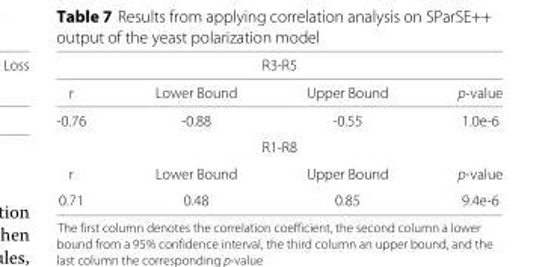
<table><thead><tr><td colspan="4">R3-R5</td></tr><tr><td>r</td><td>Lower Bound</td><td>Upper Bound</td><td>p-value</td></tr></thead><tbody><tr><td>-0.76</td><td>-0.88</td><td>-0.55</td><td>1.0e-6</td></tr><tr><td colspan="4">R1-R8</td></tr><tr><td>r</td><td>Lower Bound</td><td>Upper Bound</td><td>p-value</td></tr><tr><td>0.71</td><td>0.48</td><td>0.85</td><td>9.4e-6</td></tr></tbody></table>